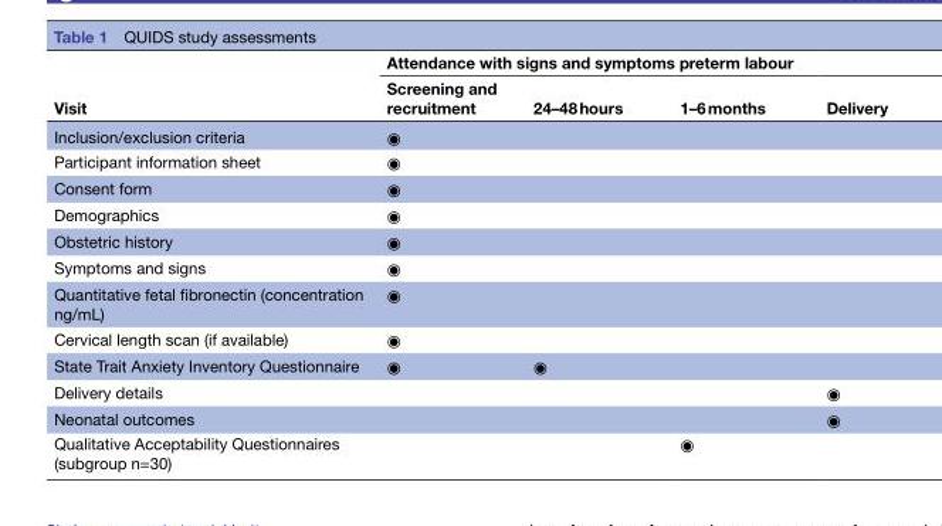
<table><thead><tr><td rowspan="2">Visit</td><td colspan="4">Attendance with signs and symptoms preterm labour</td></tr><tr><td>Screening and recruitment</td><td>24–48 hours</td><td>1–6 months</td><td>Delivery</td></tr></thead><tbody><tr><td>Inclusion/exclusion criteria</td><td>◉</td><td></td><td></td><td></td></tr><tr><td>Participant information sheet</td><td>◉</td><td></td><td></td><td></td></tr><tr><td>Consent form</td><td>◉</td><td></td><td></td><td></td></tr><tr><td>Demographics</td><td>◉</td><td></td><td></td><td></td></tr><tr><td>Obstetric history</td><td>◉</td><td></td><td></td><td></td></tr><tr><td>Symptoms and signs</td><td>◉</td><td></td><td></td><td></td></tr><tr><td>Quantitative fetal fibronectin (concentration ng/mL)</td><td>◉</td><td></td><td></td><td></td></tr><tr><td>Cervical length scan (if available)</td><td>◉</td><td></td><td></td><td></td></tr><tr><td>State Trait Anxiety Inventory Questionnaire</td><td>◉</td><td>◉</td><td></td><td></td></tr><tr><td>Delivery details</td><td></td><td></td><td></td><td>◉</td></tr><tr><td>Neonatal outcomes</td><td></td><td></td><td></td><td>◉</td></tr><tr><td>Qualitative Acceptability Questionnaires (subgroup n=30)</td><td></td><td></td><td>◉</td><td></td></tr></tbody></table>